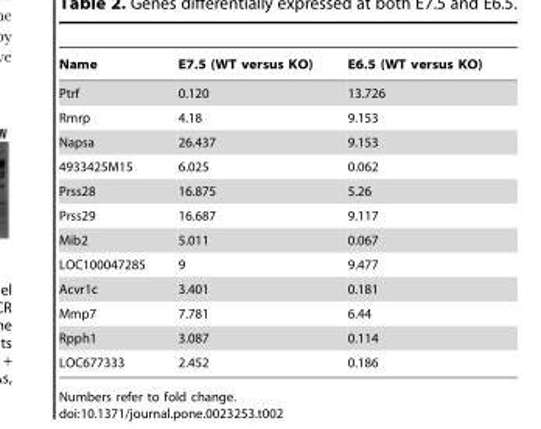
<table><thead><tr><td>Name</td><td>E7.5 (WT versus KO)</td><td>E6.5 (WT versus KO)</td></tr></thead><tbody><tr><td>Ptrf</td><td>0.120</td><td>13.726</td></tr><tr><td>Rmrp</td><td>4.18</td><td>9.153</td></tr><tr><td>Napsa</td><td>26.437</td><td>9.153</td></tr><tr><td>4933425M15</td><td>6.025</td><td>0.062</td></tr><tr><td>Prss28</td><td>16.875</td><td>5.26</td></tr><tr><td>Prss29</td><td>16.687</td><td>9.117</td></tr><tr><td>Mib2</td><td>5.011</td><td>0.067</td></tr><tr><td>LOC100047285</td><td>9</td><td>9.477</td></tr><tr><td>Acvr1c</td><td>3.401</td><td>0.181</td></tr><tr><td>Mmp7</td><td>7.781</td><td>6.44</td></tr><tr><td>Rpph1</td><td>3.087</td><td>0.114</td></tr><tr><td>LOC677333</td><td>2.452</td><td>0.186</td></tr></tbody></table>